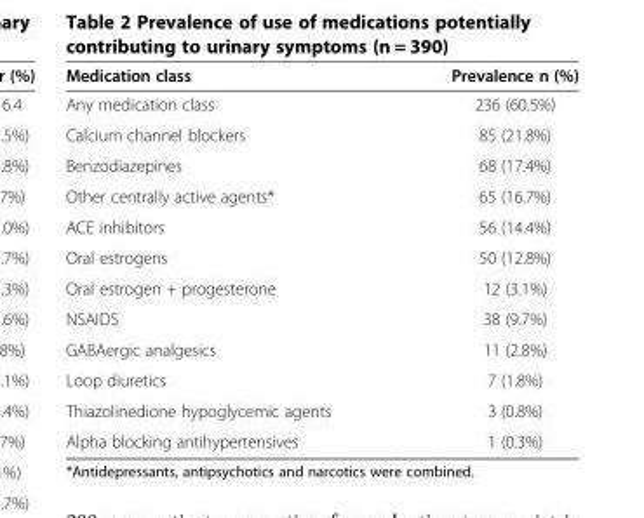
<table><thead><tr><td>Medication class</td><td>Prevalence n (%)</td></tr></thead><tbody><tr><td>Any medication class</td><td>236 (60.5%)</td></tr><tr><td>Calcium channel blockers</td><td>85 (21.8%)</td></tr><tr><td>Benzodiazepines</td><td>68 (17.4%)</td></tr><tr><td>Other centrally active agents*</td><td>65 (16.7%)</td></tr><tr><td>ACE inhibitors</td><td>56 (14.4%)</td></tr><tr><td>Oral estrogens</td><td>50 (12.8%)</td></tr><tr><td>Oral estrogen + progesterone</td><td>12 (3.1%)</td></tr><tr><td>NSAIDS</td><td>38 (9.7%)</td></tr><tr><td>GABAergic analgesics</td><td>11 (2.8%)</td></tr><tr><td>Loop diuretics</td><td>7 (1.8%)</td></tr><tr><td>Thiazolinedione hypoglycemic agents</td><td>3 (0.8%)</td></tr><tr><td>Alpha blocking antihypertensives</td><td>1 (0.3%)</td></tr></tbody></table>